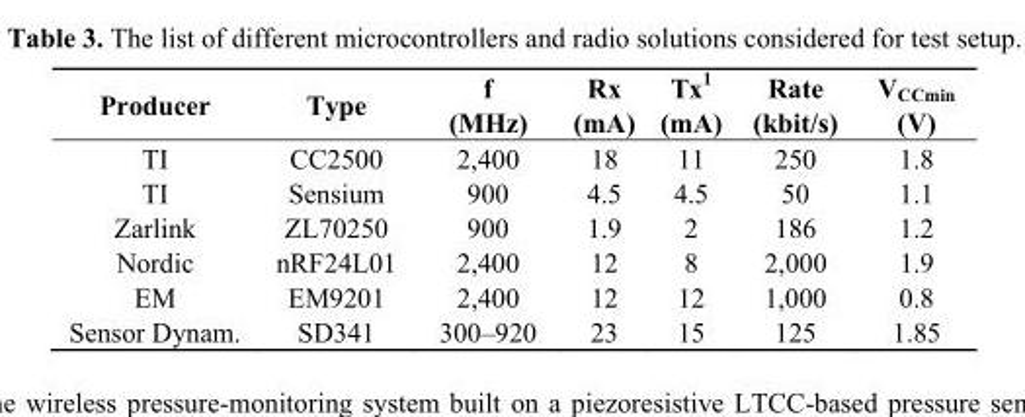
<table><thead><tr><td>Producer</td><td>Type</td><td>f (MHz)</td><td>Rx (mA)</td><td>Tx<sup>1</sup> (mA)</td><td>Rate (kbit/s)</td><td>V<sub>CCmin</sub> (V)</td></tr></thead><tbody><tr><td>TI</td><td>CC2500</td><td>2,400</td><td>18</td><td>11</td><td>250</td><td>1.8</td></tr><tr><td>TI</td><td>Sensium</td><td>900</td><td>4.5</td><td>4.5</td><td>50</td><td>1.1</td></tr><tr><td>Zarlink</td><td>ZL70250</td><td>900</td><td>1.9</td><td>2</td><td>186</td><td>1.2</td></tr><tr><td>Nordic</td><td>nRF24L01</td><td>2,400</td><td>12</td><td>8</td><td>2,000</td><td>1.9</td></tr><tr><td>EM</td><td>EM9201</td><td>2,400</td><td>12</td><td>12</td><td>1,000</td><td>0.8</td></tr><tr><td>Sensor Dynam.</td><td>SD341</td><td>300–920</td><td>23</td><td>15</td><td>125</td><td>1.85</td></tr></tbody></table>